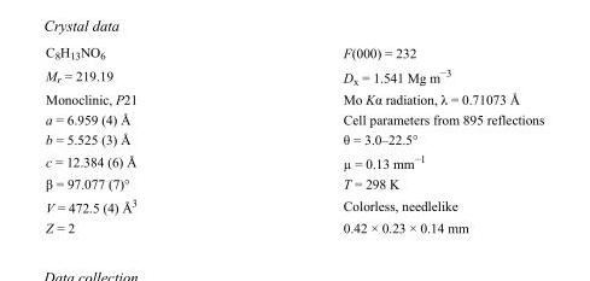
<table><tbody><tr><td>C<sub>8</sub>H<sub>13</sub>NO<sub>6</sub></td><td>F(000) = 232</td></tr><tr><td>M<sub>r</sub> = 219.19</td><td>D<sub>x</sub> = 1.541 Mg m<sup>−3</sup></td></tr><tr><td>Monoclinic, P21</td><td>Mo Kα radiation, λ = 0.71073 Å</td></tr><tr><td>a = 6.959 (4) Å</td><td>Cell parameters from 895 reflections</td></tr><tr><td>b = 5.525 (3) Å</td><td>θ = 3.0–22.5°</td></tr><tr><td>c = 12.384 (6) Å</td><td>µ = 0.13 mm<sup>−1</sup></td></tr><tr><td>β = 97.077 (7)°</td><td>T = 298 K</td></tr><tr><td>V = 472.5 (4) Å<sup>3</sup></td><td>Colorless, needlelike</td></tr><tr><td>Z = 2</td><td>0.42 × 0.23 × 0.14 mm</td></tr></tbody></table>